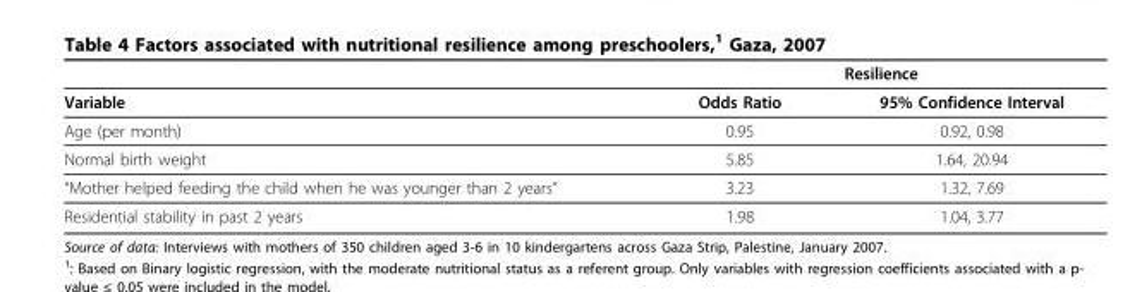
<table><thead><tr><td rowspan="2">Variable</td><td colspan="2">Resilience</td></tr><tr><td>Odds Ratio</td><td>95% Confidence Interval</td></tr></thead><tbody><tr><td>Age (per month)</td><td>0.95</td><td>0.92, 0.98</td></tr><tr><td>Normal birth weight</td><td>5.85</td><td>1.64, 20.94</td></tr><tr><td>“Mother helped feeding the child when he was younger than 2 years”</td><td>3.23</td><td>1.32, 7.69</td></tr><tr><td>Residential stability in past 2 years</td><td>1.98</td><td>1.04, 3.77</td></tr></tbody></table>